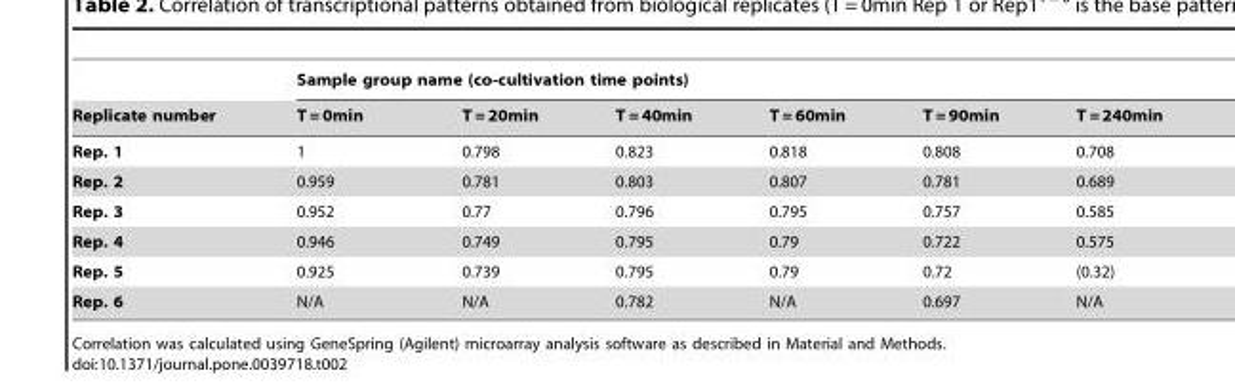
<table><thead><tr><td rowspan="2">Replicate number</td><td colspan="6">Sample group name (co-cultivation time points)</td></tr><tr><td>T = 0min</td><td>T = 20min</td><td>T = 40min</td><td>T = 60min</td><td>T = 90min</td><td>T = 240min</td></tr></thead><tbody><tr><td>Rep. 1</td><td>1</td><td>0.798</td><td>0.823</td><td>0.818</td><td>0.808</td><td>0.708</td></tr><tr><td>Rep. 2</td><td>0.959</td><td>0.781</td><td>0.803</td><td>0.807</td><td>0.781</td><td>0.689</td></tr><tr><td>Rep. 3</td><td>0.952</td><td>0.77</td><td>0.796</td><td>0.795</td><td>0.757</td><td>0.585</td></tr><tr><td>Rep. 4</td><td>0.946</td><td>0.749</td><td>0.795</td><td>0.79</td><td>0.722</td><td>0.575</td></tr><tr><td>Rep. 5</td><td>0.925</td><td>0.739</td><td>0.795</td><td>0.79</td><td>0.72</td><td>(0.32)</td></tr><tr><td>Rep. 6</td><td>N/A</td><td>N/A</td><td>0.782</td><td>N/A</td><td>0.697</td><td>N/A</td></tr></tbody></table>